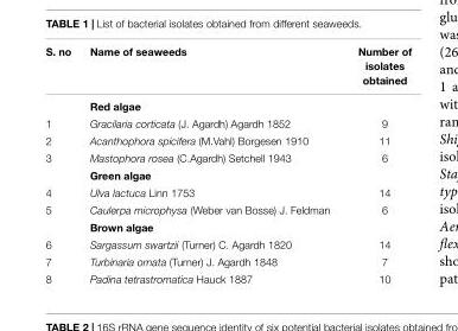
<table><thead><tr><td>S. no</td><td>Name of seaweeds</td><td>Number of isolates obtained</td></tr></thead><tbody><tr><td></td><td>Red algae</td><td></td></tr><tr><td>1</td><td>Gracilaria corticata (J. Agardh) Agardh 1852</td><td>9</td></tr><tr><td>2</td><td>Acanthophora spicifera (M.Vahl) Borgesen 1910</td><td>11</td></tr><tr><td rowspan="2">3</td><td>Mastophora rosea (C.Agardh) Setchell 1943</td><td>6</td></tr><tr><td>Green algae</td><td></td></tr><tr><td>4</td><td>Ulva lactuca Linn 1753</td><td>14</td></tr><tr><td rowspan="2">5</td><td>Caulerpa microphysa (Weber van Bosse) J. Feldman</td><td>6</td></tr><tr><td>Brown algae</td><td></td></tr><tr><td>6</td><td>Sargassum swartzii (Turner) C. Agardh 1820</td><td>14</td></tr><tr><td>7</td><td>Turbinaria ornata (Turner) J. Agardh 1848</td><td>7</td></tr><tr><td>8</td><td>Padina tetrastromatica Hauck 1887</td><td>10</td></tr></tbody></table>